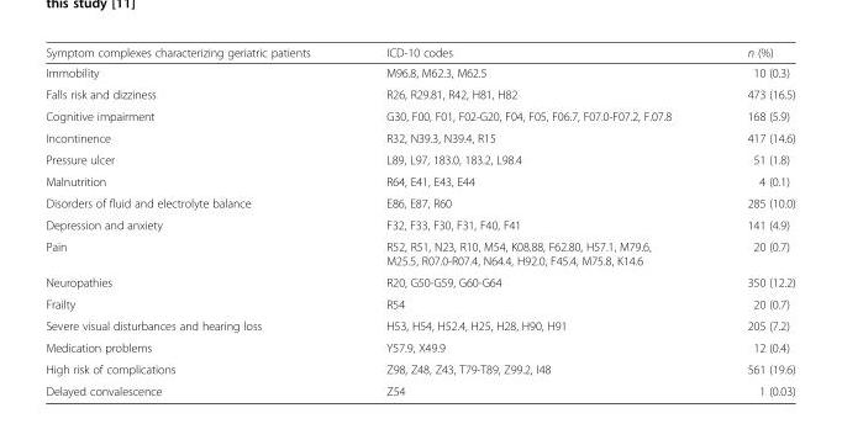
<table><thead><tr><td>Symptom complexes characterizing geriatric patients</td><td>ICD-10 codes</td><td>n (%)</td></tr></thead><tbody><tr><td>Immobility</td><td>M96.8, M62.3, M62.5</td><td>10 (0.3)</td></tr><tr><td>Falls risk and dizziness</td><td>R26, R29.81, R42, H81, H82</td><td>473 (16.5)</td></tr><tr><td>Cognitive impairment</td><td>G30, F00, F01, F02-G20, F04, F05, F06.7, F07.0-F07.2, F.07.8</td><td>168 (5.9)</td></tr><tr><td>Incontinence</td><td>R32, N39.3, N39.4, R15</td><td>417 (14.6)</td></tr><tr><td>Pressure ulcer</td><td>L89, L97, 183.0, 183.2, L98.4</td><td>51 (1.8)</td></tr><tr><td>Malnutrition</td><td>R64, E41, E43, E44</td><td>4 (0.1)</td></tr><tr><td>Disorders of fluid and electrolyte balance</td><td>E86, E87, R60</td><td>285 (10.0)</td></tr><tr><td>Depression and anxiety</td><td>F32, F33, F30, F31, F40, F41</td><td>141 (4.9)</td></tr><tr><td>Pain</td><td>R52, R51, N23, R10, M54, K08.88, F62.80, H57.1, M79.6, M25.5, R07.0-R07.4, N64.4, H92.0, F45.4, M75.8, K14.6</td><td>20 (0.7)</td></tr><tr><td>Neuropathies</td><td>R20, G50-G59, G60-G64</td><td>350 (12.2)</td></tr><tr><td>Frailty</td><td>R54</td><td>20 (0.7)</td></tr><tr><td>Severe visual disturbances and hearing loss</td><td>H53, H54, H52.4, H25, H28, H90, H91</td><td>205 (7.2)</td></tr><tr><td>Medication problems</td><td>Y57.9, X49.9</td><td>12 (0.4)</td></tr><tr><td>High risk of complications</td><td>Z98, Z48, Z43, T79-T89, Z99.2, I48</td><td>561 (19.6)</td></tr><tr><td>Delayed convalescence</td><td>Z54</td><td>1 (0.03)</td></tr></tbody></table>